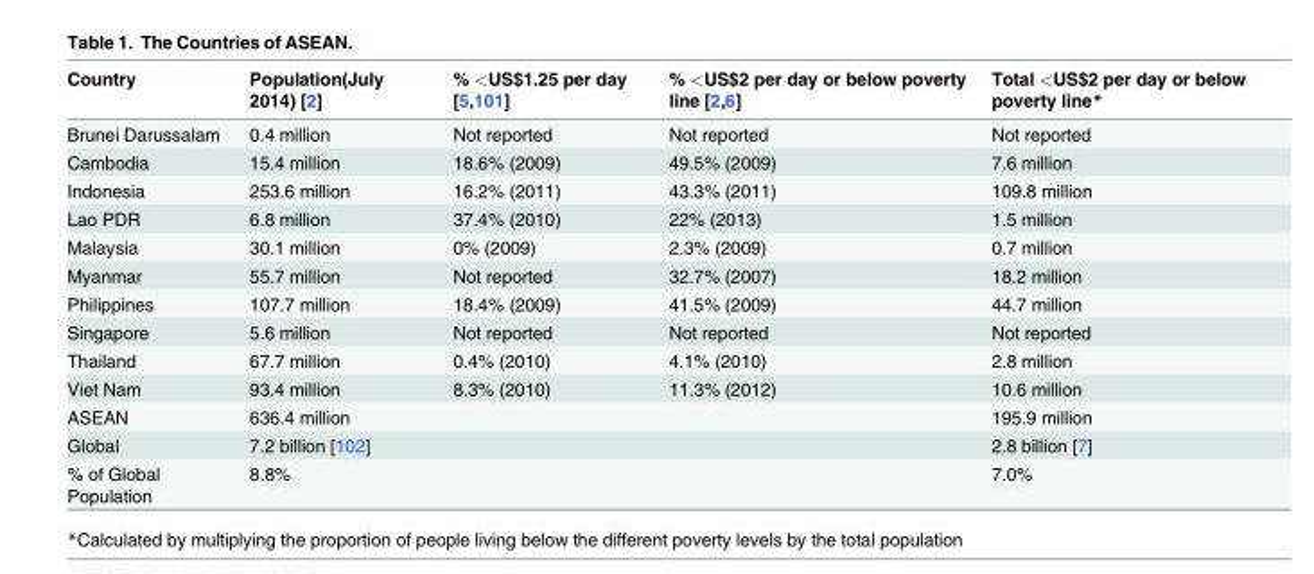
<table><thead><tr><td>Country</td><td>Population(July 2014) [2]</td><td>% &lt;US$1.25 per day [5,101]</td><td>% &lt;US$2 per day or below poverty line [2,6]</td><td>Total &lt;US$2 per day or below poverty line*</td></tr></thead><tbody><tr><td>Brunei Darussalam</td><td>0.4 million</td><td>Not reported</td><td>Not reported</td><td>Not reported</td></tr><tr><td>Cambodia</td><td>15.4 million</td><td>18.6% (2009)</td><td>49.5% (2009)</td><td>7.6 million</td></tr><tr><td>Indonesia</td><td>253.6 million</td><td>16.2% (2011)</td><td>43.3% (2011)</td><td>109.8 million</td></tr><tr><td>Lao PDR</td><td>6.8 million</td><td>37.4% (2010)</td><td>22% (2013)</td><td>1.5 million</td></tr><tr><td>Malaysia</td><td>30.1 million</td><td>0% (2009)</td><td>2.3% (2009)</td><td>0.7 million</td></tr><tr><td>Myanmar</td><td>55.7 million</td><td>Not reported</td><td>32.7% (2007)</td><td>18.2 million</td></tr><tr><td>Philippines</td><td>107.7 million</td><td>18.4% (2009)</td><td>41.5% (2009)</td><td>44.7 million</td></tr><tr><td>Singapore</td><td>5.6 million</td><td>Not reported</td><td>Not reported</td><td>Not reported</td></tr><tr><td>Thailand</td><td>67.7 million</td><td>0.4% (2010)</td><td>4.1% (2010)</td><td>2.8 million</td></tr><tr><td>Viet Nam</td><td>93.4 million</td><td>8.3% (2010)</td><td>11.3% (2012)</td><td>10.6 million</td></tr><tr><td>ASEAN</td><td>636.4 million</td><td></td><td></td><td>195.9 million</td></tr><tr><td>Global</td><td>7.2 billion [102]</td><td></td><td></td><td>2.8 billion [7]</td></tr><tr><td>% of Global Population</td><td>8.8%</td><td></td><td></td><td>7.0%</td></tr></tbody></table>